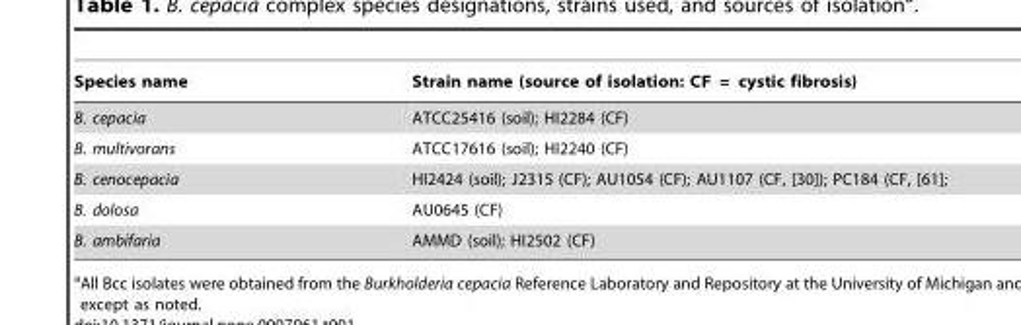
<table><thead><tr><td>Species name</td><td>Strain name (source of isolation: CF = cystic fibrosis)</td></tr></thead><tbody><tr><td>B. cepacia</td><td>ATCC25416 (soil); HI2284 (CF)</td></tr><tr><td>B. multivorans</td><td>ATCC17616 (soil); HI2240 (CF)</td></tr><tr><td>B. cenocepacia</td><td>HI2424 (soil); J2315 (CF); AU1054 (CF); AU1107 (CF, [30]); PC184 (CF, [61];</td></tr><tr><td>B. dolosa</td><td>AU0645 (CF)</td></tr><tr><td>B. ambifaria</td><td>AMMD (soil); HI2502 (CF)</td></tr></tbody></table>